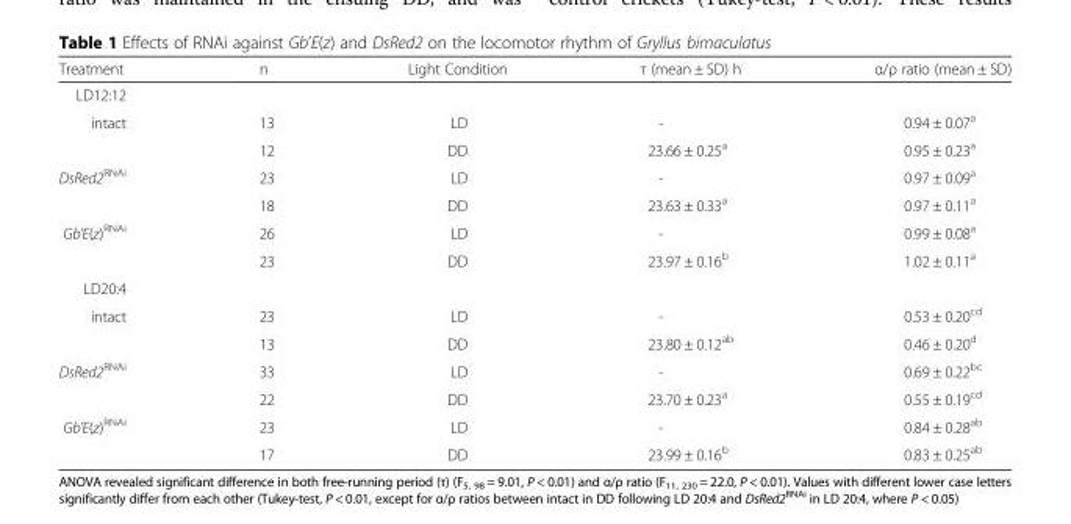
<table><thead><tr><td>Treatment</td><td>n</td><td>Light Condition</td><td>τ (mean ± SD) h</td><td>α/ρ ratio (mean ± SD)</td></tr></thead><tbody><tr><td colspan="5">LD12:12</td></tr><tr><td rowspan="2">intact</td><td>13</td><td>LD</td><td>-</td><td>0.94 ± 0.07<sup>a</sup></td></tr><tr><td>12</td><td>DD</td><td>23.66 ± 0.25<sup>a</sup></td><td>0.95 ± 0.23<sup>a</sup></td></tr><tr><td rowspan="2">DsRed2<sup>RNAi</sup></td><td>23</td><td>LD</td><td>-</td><td>0.97 ± 0.09<sup>a</sup></td></tr><tr><td>18</td><td>DD</td><td>23.63 ± 0.33<sup>a</sup></td><td>0.97 ± 0.11<sup>a</sup></td></tr><tr><td rowspan="2">Gb’E(z)<sup>RNAi</sup></td><td>26</td><td>LD</td><td>-</td><td>0.99 ± 0.08<sup>a</sup></td></tr><tr><td>23</td><td>DD</td><td>23.97 ± 0.16<sup>b</sup></td><td>1.02 ± 0.11<sup>a</sup></td></tr><tr><td colspan="5">LD20:4</td></tr><tr><td rowspan="2">intact</td><td>23</td><td>LD</td><td>-</td><td>0.53 ± 0.20<sup>cd</sup></td></tr><tr><td>13</td><td>DD</td><td>23.80 ± 0.12<sup>ab</sup></td><td>0.46 ± 0.20<sup>d</sup></td></tr><tr><td rowspan="2">DsRed2<sup>RNAi</sup></td><td>33</td><td>LD</td><td>-</td><td>0.69 ± 0.22<sup>bc</sup></td></tr><tr><td>22</td><td>DD</td><td>23.70 ± 0.23<sup>a</sup></td><td>0.55 ± 0.19<sup>cd</sup></td></tr><tr><td rowspan="2">Gb’E(z)<sup>RNAi</sup></td><td>23</td><td>LD</td><td>-</td><td>0.84 ± 0.28<sup>ab</sup></td></tr><tr><td>17</td><td>DD</td><td>23.99 ± 0.16<sup>b</sup></td><td>0.83 ± 0.25<sup>ab</sup></td></tr></tbody></table>